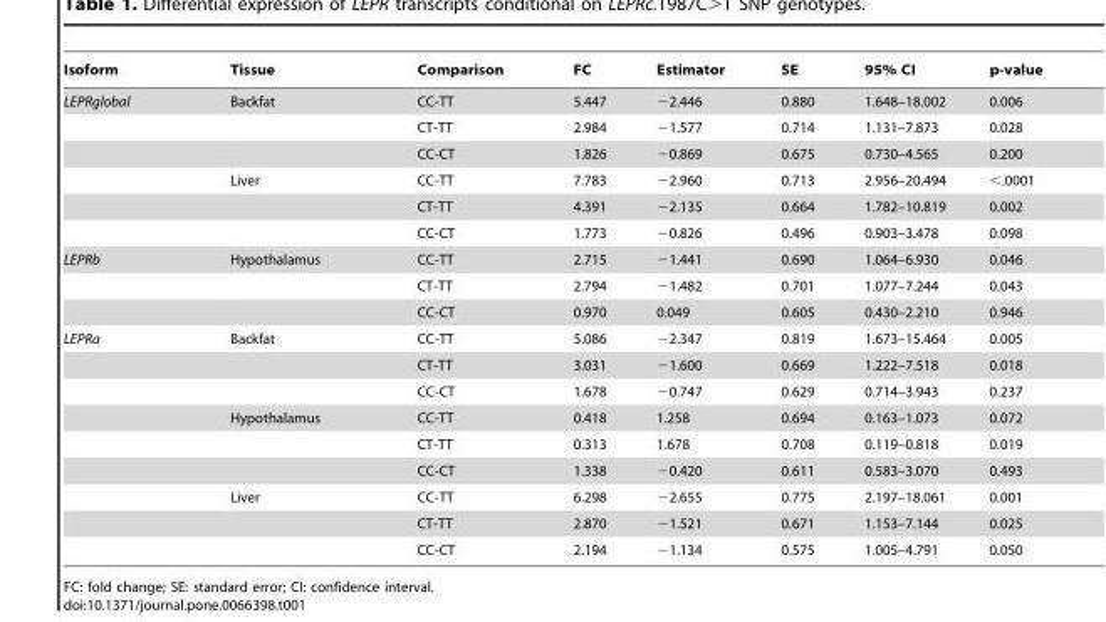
<table><thead><tr><td>Isoform</td><td>Tissue</td><td>Comparison</td><td>FC</td><td>Estimator</td><td>SE</td><td>95% CI</td><td>p-value</td></tr></thead><tbody><tr><td rowspan="6">LEPRglobal</td><td>Backfat</td><td>CC-TT</td><td>5.447</td><td>−2.446</td><td>0.880</td><td>1.648–18.002</td><td>0.006</td></tr><tr><td></td><td>CT-TT</td><td>2.984</td><td>−1.577</td><td>0.714</td><td>1.131–7.873</td><td>0.028</td></tr><tr><td></td><td>CC-CT</td><td>1.826</td><td>−0.869</td><td>0.675</td><td>0.730–4.565</td><td>0.200</td></tr><tr><td>Liver</td><td>CC-TT</td><td>7.783</td><td>−2.960</td><td>0.713</td><td>2.956–20.494</td><td>&lt;.0001</td></tr><tr><td></td><td>CT-TT</td><td>4.391</td><td>−2.135</td><td>0.664</td><td>1.782–10.819</td><td>0.002</td></tr><tr><td></td><td>CC-CT</td><td>1.773</td><td>−0.826</td><td>0.496</td><td>0.903–3.478</td><td>0.098</td></tr><tr><td rowspan="3">LEPRb</td><td>Hypothalamus</td><td>CC-TT</td><td>2.715</td><td>−1.441</td><td>0.690</td><td>1.064–6.930</td><td>0.046</td></tr><tr><td></td><td>CT-TT</td><td>2.794</td><td>−1.482</td><td>0.701</td><td>1.077–7.244</td><td>0.043</td></tr><tr><td></td><td>CC-CT</td><td>0.970</td><td>0.049</td><td>0.605</td><td>0.430–2.210</td><td>0.946</td></tr><tr><td rowspan="9">LEPRa</td><td>Backfat</td><td>CC-TT</td><td>5.086</td><td>−2.347</td><td>0.819</td><td>1.673–15.464</td><td>0.005</td></tr><tr><td></td><td>CT-TT</td><td>3.031</td><td>−1.600</td><td>0.669</td><td>1.222–7.518</td><td>0.018</td></tr><tr><td></td><td>CC-CT</td><td>1.678</td><td>−0.747</td><td>0.629</td><td>0.714–3.943</td><td>0.237</td></tr><tr><td>Hypothalamus</td><td>CC-TT</td><td>0.418</td><td>1.258</td><td>0.694</td><td>0.163–1.073</td><td>0.072</td></tr><tr><td></td><td>CT-TT</td><td>0.313</td><td>1.678</td><td>0.708</td><td>0.119–0.818</td><td>0.019</td></tr><tr><td></td><td>CC-CT</td><td>1.338</td><td>−0.420</td><td>0.611</td><td>0.583–3.070</td><td>0.493</td></tr><tr><td>Liver</td><td>CC-TT</td><td>6.298</td><td>−2.655</td><td>0.775</td><td>2.197–18.061</td><td>0.001</td></tr><tr><td></td><td>CT-TT</td><td>2.870</td><td>−1.521</td><td>0.671</td><td>1.153–7.144</td><td>0.025</td></tr><tr><td></td><td>CC-CT</td><td>2.194</td><td>−1.134</td><td>0.575</td><td>1.005–4.791</td><td>0.050</td></tr></tbody></table>